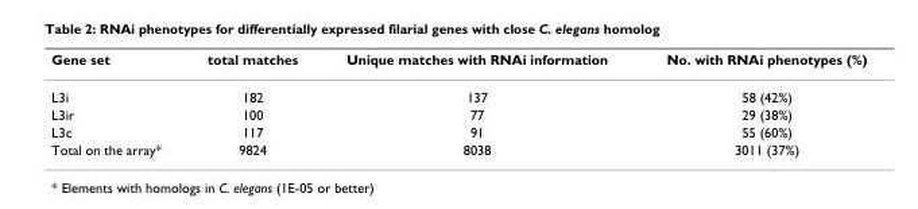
<table><thead><tr><td>Gene set</td><td>total matches</td><td>Unique matches with RNAi information</td><td>No. with RNAi phenotypes (%)</td></tr></thead><tbody><tr><td>L3i</td><td>182</td><td>137</td><td>58 (42%)</td></tr><tr><td>L3ir</td><td>100</td><td>77</td><td>29 (38%)</td></tr><tr><td>L3c</td><td>117</td><td>91</td><td>55 (60%)</td></tr><tr><td>Total on the array*</td><td>9824</td><td>8038</td><td>3011 (37%)</td></tr></tbody></table>